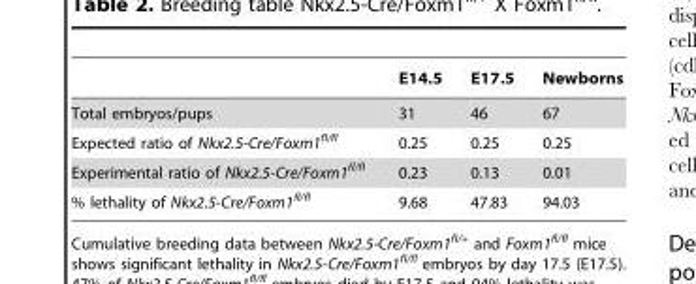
<table><thead><tr><td></td><td>E14.5</td><td>E17.5</td><td>Newborns</td></tr></thead><tbody><tr><td>Total embryos/pups</td><td>31</td><td>46</td><td>67</td></tr><tr><td>Expected ratio of Nkx2.5-Cre/Foxm1<sup>fl/fl</sup></td><td>0.25</td><td>0.25</td><td>0.25</td></tr><tr><td>Experimental ratio of Nkx2.5-Cre/Foxm1<sup>fl/fl</sup></td><td>0.23</td><td>0.13</td><td>0.01</td></tr><tr><td>% lethality of Nkx2.5-Cre/Foxm1<sup>fl/fl</sup></td><td>9.68</td><td>47.83</td><td>94.03</td></tr></tbody></table>